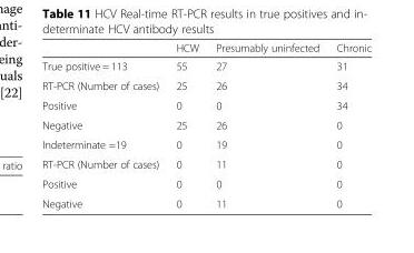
<table><thead><tr><td></td><td>HCW</td><td>Presumably uninfected</td><td>Chronic</td></tr></thead><tbody><tr><td>True positive = 113</td><td>55</td><td>27</td><td>31</td></tr><tr><td>RT-PCR (Number of cases)</td><td>25</td><td>26</td><td>34</td></tr><tr><td>Positive</td><td>0</td><td>0</td><td>34</td></tr><tr><td>Negative</td><td>25</td><td>26</td><td>0</td></tr><tr><td>Indeterminate =19</td><td>0</td><td>19</td><td>0</td></tr><tr><td>RT-PCR (Number of cases)</td><td>0</td><td>11</td><td>0</td></tr><tr><td>Positive</td><td>0</td><td>0</td><td>0</td></tr><tr><td>Negative</td><td>0</td><td>11</td><td>0</td></tr></tbody></table>